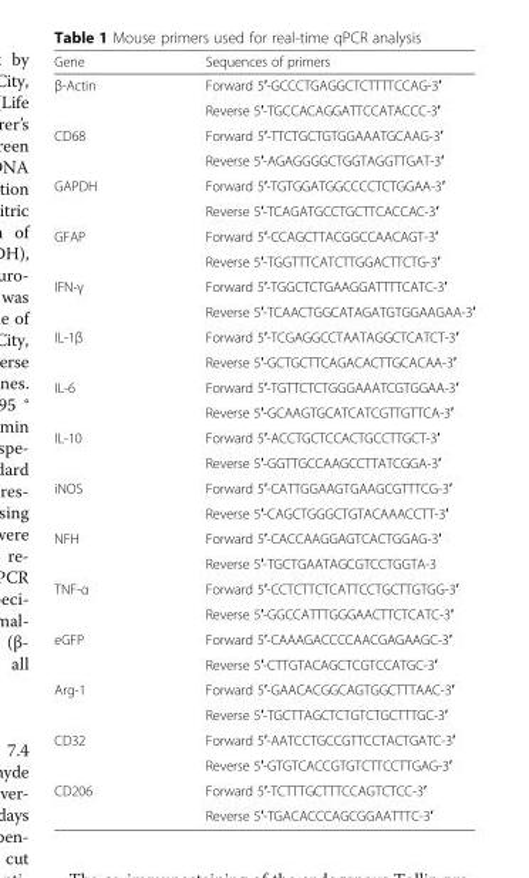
<table><thead><tr><td>Gene</td><td>Sequences of primers</td></tr></thead><tbody><tr><td rowspan="2">β-Actin</td><td>Forward 5′-GCCCTGAGGCTCTTTTCCAG-3′</td></tr><tr><td>Reverse 5′-TGCCACAGGATTCCATACCC-3′</td></tr><tr><td rowspan="2">CD68</td><td>Forward 5′-TTCTGCTGTGGAAATGCAAG-3′</td></tr><tr><td>Reverse 5′-AGAGGGGCTGGTAGGTTGAT-3′</td></tr><tr><td rowspan="2">GAPDH</td><td>Forward 5′-TGTGGATGGCCCCTCTGGAA-3′</td></tr><tr><td>Reverse 5′-TCAGATGCCTGCTTCACCAC-3′</td></tr><tr><td rowspan="2">GFAP</td><td>Forward 5′-CCAGCTTACGGCCAACAGT-3′</td></tr><tr><td>Reverse 5′-TGGTTTCATCTTGGACTTCTG-3′</td></tr><tr><td rowspan="2">IFN-γ</td><td>Forward 5′-TGGCTCTGAAGGATTTTCATC-3′</td></tr><tr><td>Reverse 5′-TCAACTGGCATAGATGTGGAAGAA-3′</td></tr><tr><td rowspan="2">IL-1β</td><td>Forward 5′-TCGAGGCCTAATAGGCTCATCT-3′</td></tr><tr><td>Reverse 5′-GCTGCTTCAGACACTTGCACAA-3′</td></tr><tr><td rowspan="2">IL-6</td><td>Forward 5′-TGTTCTCTGGGAAATCGTGGAA-3′</td></tr><tr><td>Reverse 5′-GCAAGTGCATCATCGTTGTTCA-3′</td></tr><tr><td rowspan="2">IL-10</td><td>Forward 5′-ACCTGCTCCACTGCCTTGCT-3′</td></tr><tr><td>Reverse 5′-GGTTGCCAAGCCTTATCGGA-3′</td></tr><tr><td rowspan="2">iNOS</td><td>Forward 5′-CATTGGAAGTGAAGCGTTTCG-3′</td></tr><tr><td>Reverse 5′-CAGCTGGGCTGTACAAACCTT-3′</td></tr><tr><td rowspan="2">NFH</td><td>Forward 5′-CACCAAGGAGTCACTGGAG-3′</td></tr><tr><td>Reverse 5′-TGCTGAATAGCGTCCTGGTA-3</td></tr><tr><td rowspan="2">TNF-α</td><td>Forward 5′-CCTCTTCTCATTCCTGCTTGTGG-3′</td></tr><tr><td>Reverse 5′-GGCCATTTGGGAACTTCTCATC-3′</td></tr><tr><td rowspan="2">eGFP</td><td>Forward 5′-CAAAGACCCCAACGAGAAGC-3′</td></tr><tr><td>Reverse 5′-CTTGTACAGCTCGTCCATGC-3′</td></tr><tr><td rowspan="2">Arg-1</td><td>Forward 5′-GAACACGGCAGTGGCTTTAAC-3′</td></tr><tr><td>Reverse 5′-TGCTTAGCTCTGTCTGCTTTGC-3′</td></tr><tr><td rowspan="2">CD32</td><td>Forward 5′-AATCCTGCCGTTCCTACTGATC-3′</td></tr><tr><td>Reverse 5′-GTGTCACCGTGTCTTCCTTGAG-3′</td></tr><tr><td rowspan="2">CD206</td><td>Forward 5′-TCTTTGCTTTCCAGTCTCC-3′</td></tr><tr><td>Reverse 5′-TGACACCCAGCGGAATTTC-3′</td></tr></tbody></table>